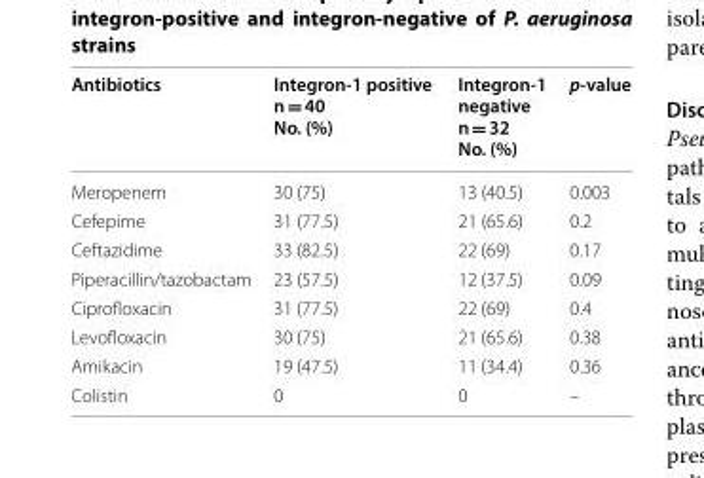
<table><thead><tr><td>Antibiotics</td><td>Integron-1 positive n = 40 No. (%)</td><td>Integron-1 negative n = 32 No. (%)</td><td>p-value</td></tr></thead><tbody><tr><td>Meropenem</td><td>30 (75)</td><td>13 (40.5)</td><td>0.003</td></tr><tr><td>Cefepime</td><td>31 (77.5)</td><td>21 (65.6)</td><td>0.2</td></tr><tr><td>Ceftazidime</td><td>33 (82.5)</td><td>22 (69)</td><td>0.17</td></tr><tr><td>Piperacillin/tazobactam</td><td>23 (57.5)</td><td>12 (37.5)</td><td>0.09</td></tr><tr><td>Ciprofloxacin</td><td>31 (77.5)</td><td>22 (69)</td><td>0.4</td></tr><tr><td>Levofloxacin</td><td>30 (75)</td><td>21 (65.6)</td><td>0.38</td></tr><tr><td>Amikacin</td><td>19 (47.5)</td><td>11 (34.4)</td><td>0.36</td></tr><tr><td>Colistin</td><td>0</td><td>0</td><td>–</td></tr></tbody></table>